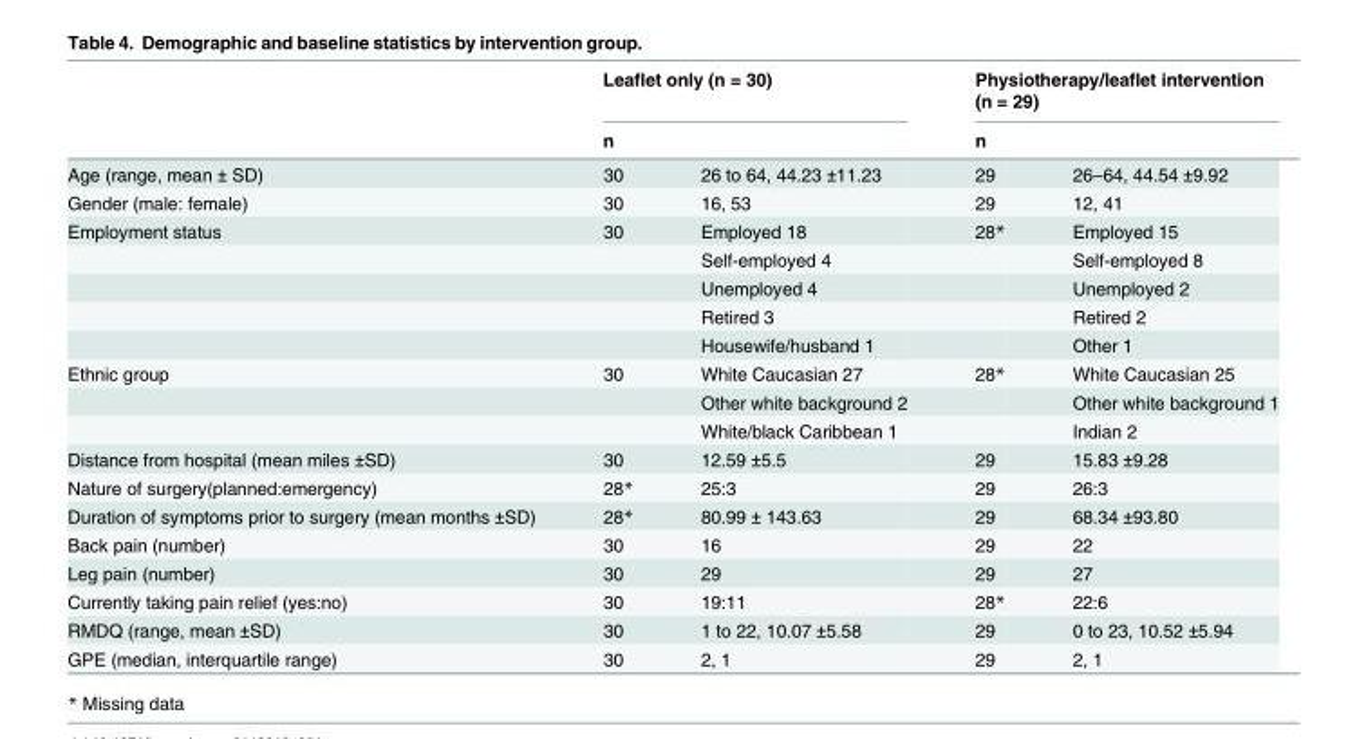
<table><thead><tr><td rowspan="2"></td><td colspan="2">Leaflet only (n = 30)</td><td colspan="2">Physiotherapy/leaflet intervention (n = 29)</td></tr><tr><td>n</td><td></td><td>n</td><td></td></tr></thead><tbody><tr><td>Age (range, mean ± SD)</td><td>30</td><td>26 to 64, 44.23 ±11.23</td><td>29</td><td>26–64, 44.54 ±9.92</td></tr><tr><td>Gender (male: female)</td><td>30</td><td>16, 53</td><td>29</td><td>12, 41</td></tr><tr><td rowspan="5">Employment status</td><td>30</td><td>Employed 18</td><td>28*</td><td>Employed 15</td></tr><tr><td></td><td>Self-employed 4</td><td></td><td>Self-employed 8</td></tr><tr><td></td><td>Unemployed 4</td><td></td><td>Unemployed 2</td></tr><tr><td></td><td>Retired 3</td><td></td><td>Retired 2</td></tr><tr><td></td><td>Housewife/husband 1</td><td></td><td>Other 1</td></tr><tr><td rowspan="3">Ethnic group</td><td>30</td><td>White Caucasian 27</td><td>28*</td><td>White Caucasian 25</td></tr><tr><td></td><td>Other white background 2</td><td></td><td>Other white background 1</td></tr><tr><td></td><td>White/black Caribbean 1</td><td></td><td>Indian 2</td></tr><tr><td>Distance from hospital (mean miles ±SD)</td><td>30</td><td>12.59 ±5.5</td><td>29</td><td>15.83 ±9.28</td></tr><tr><td>Nature of surgery(planned:emergency)</td><td>28*</td><td>25:3</td><td>29</td><td>26:3</td></tr><tr><td>Duration of symptoms prior to surgery (mean months ±SD)</td><td>28*</td><td>80.99 ± 143.63</td><td>29</td><td>68.34 ±93.80</td></tr><tr><td>Back pain (number)</td><td>30</td><td>16</td><td>29</td><td>22</td></tr><tr><td>Leg pain (number)</td><td>30</td><td>29</td><td>29</td><td>27</td></tr><tr><td>Currently taking pain relief (yes:no)</td><td>30</td><td>19:11</td><td>28*</td><td>22:6</td></tr><tr><td>RMDQ (range, mean ±SD)</td><td>30</td><td>1 to 22, 10.07 ±5.58</td><td>29</td><td>0 to 23, 10.52 ±5.94</td></tr><tr><td>GPE (median, interquartile range)</td><td>30</td><td>2, 1</td><td>29</td><td>2, 1</td></tr></tbody></table>